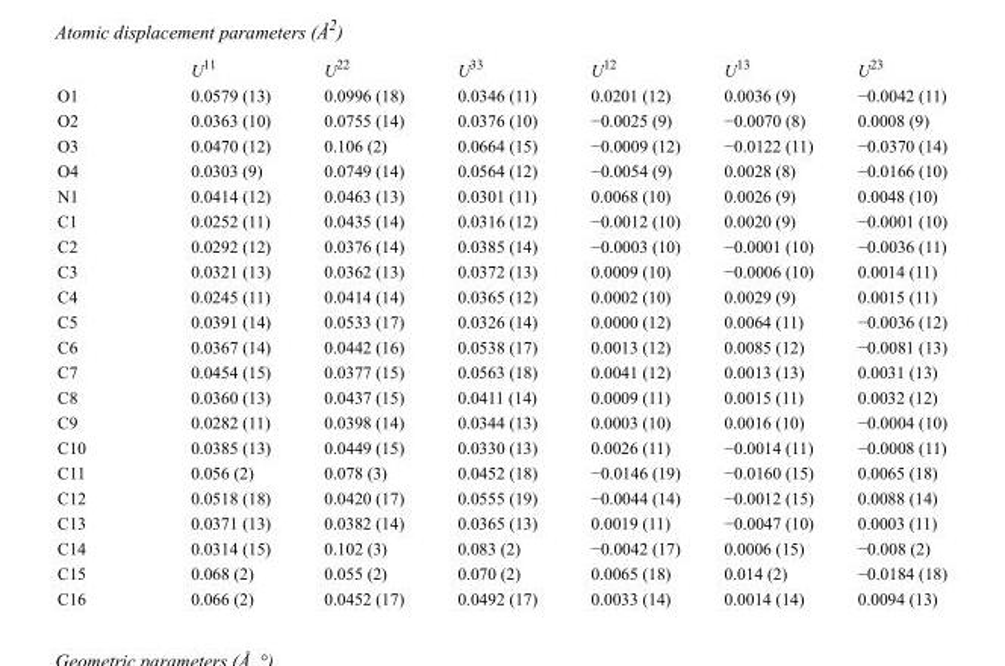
<table><thead><tr><td></td><td>U<sup>11</sup></td><td>U<sup>22</sup></td><td>U<sup>33</sup></td><td>U<sup>12</sup></td><td>U<sup>13</sup></td><td>U<sup>23</sup></td></tr></thead><tbody><tr><td>O1</td><td>0.0579 (13)</td><td>0.0996 (18)</td><td>0.0346 (11)</td><td>0.0201 (12)</td><td>0.0036 (9)</td><td>−0.0042 (11)</td></tr><tr><td>O2</td><td>0.0363 (10)</td><td>0.0755 (14)</td><td>0.0376 (10)</td><td>−0.0025 (9)</td><td>−0.0070 (8)</td><td>0.0008 (9)</td></tr><tr><td>O3</td><td>0.0470 (12)</td><td>0.106 (2)</td><td>0.0664 (15)</td><td>−0.0009 (12)</td><td>−0.0122 (11)</td><td>−0.0370 (14)</td></tr><tr><td>O4</td><td>0.0303 (9)</td><td>0.0749 (14)</td><td>0.0564 (12)</td><td>−0.0054 (9)</td><td>0.0028 (8)</td><td>−0.0166 (10)</td></tr><tr><td>N1</td><td>0.0414 (12)</td><td>0.0463 (13)</td><td>0.0301 (11)</td><td>0.0068 (10)</td><td>0.0026 (9)</td><td>0.0048 (10)</td></tr><tr><td>C1</td><td>0.0252 (11)</td><td>0.0435 (14)</td><td>0.0316 (12)</td><td>−0.0012 (10)</td><td>0.0020 (9)</td><td>−0.0001 (10)</td></tr><tr><td>C2</td><td>0.0292 (12)</td><td>0.0376 (14)</td><td>0.0385 (14)</td><td>−0.0003 (10)</td><td>−0.0001 (10)</td><td>−0.0036 (11)</td></tr><tr><td>C3</td><td>0.0321 (13)</td><td>0.0362 (13)</td><td>0.0372 (13)</td><td>0.0009 (10)</td><td>−0.0006 (10)</td><td>0.0014 (11)</td></tr><tr><td>C4</td><td>0.0245 (11)</td><td>0.0414 (14)</td><td>0.0365 (12)</td><td>0.0002 (10)</td><td>0.0029 (9)</td><td>0.0015 (11)</td></tr><tr><td>C5</td><td>0.0391 (14)</td><td>0.0533 (17)</td><td>0.0326 (14)</td><td>0.0000 (12)</td><td>0.0064 (11)</td><td>−0.0036 (12)</td></tr><tr><td>C6</td><td>0.0367 (14)</td><td>0.0442 (16)</td><td>0.0538 (17)</td><td>0.0013 (12)</td><td>0.0085 (12)</td><td>−0.0081 (13)</td></tr><tr><td>C7</td><td>0.0454 (15)</td><td>0.0377 (15)</td><td>0.0563 (18)</td><td>0.0041 (12)</td><td>0.0013 (13)</td><td>0.0031 (13)</td></tr><tr><td>C8</td><td>0.0360 (13)</td><td>0.0437 (15)</td><td>0.0411 (14)</td><td>0.0009 (11)</td><td>0.0015 (11)</td><td>0.0032 (12)</td></tr><tr><td>C9</td><td>0.0282 (11)</td><td>0.0398 (14)</td><td>0.0344 (13)</td><td>0.0003 (10)</td><td>0.0016 (10)</td><td>−0.0004 (10)</td></tr><tr><td>C10</td><td>0.0385 (13)</td><td>0.0449 (15)</td><td>0.0330 (13)</td><td>0.0026 (11)</td><td>−0.0014 (11)</td><td>−0.0008 (11)</td></tr><tr><td>C11</td><td>0.056 (2)</td><td>0.078 (3)</td><td>0.0452 (18)</td><td>−0.0146 (19)</td><td>−0.0160 (15)</td><td>0.0065 (18)</td></tr><tr><td>C12</td><td>0.0518 (18)</td><td>0.0420 (17)</td><td>0.0555 (19)</td><td>−0.0044 (14)</td><td>−0.0012 (15)</td><td>0.0088 (14)</td></tr><tr><td>C13</td><td>0.0371 (13)</td><td>0.0382 (14)</td><td>0.0365 (13)</td><td>0.0019 (11)</td><td>−0.0047 (10)</td><td>0.0003 (11)</td></tr><tr><td>C14</td><td>0.0314 (15)</td><td>0.102 (3)</td><td>0.083 (2)</td><td>−0.0042 (17)</td><td>0.0006 (15)</td><td>−0.008 (2)</td></tr><tr><td>C15</td><td>0.068 (2)</td><td>0.055 (2)</td><td>0.070 (2)</td><td>0.0065 (18)</td><td>0.014 (2)</td><td>−0.0184 (18)</td></tr><tr><td>C16</td><td>0.066 (2)</td><td>0.0452 (17)</td><td>0.0492 (17)</td><td>0.0033 (14)</td><td>0.0014 (14)</td><td>0.0094 (13)</td></tr></tbody></table>